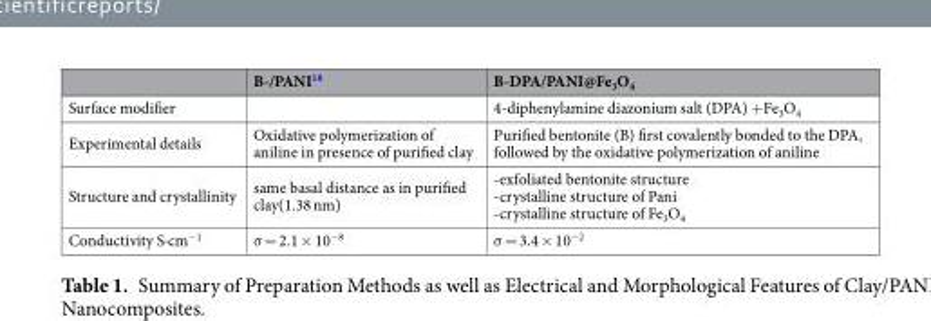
<table><thead><tr><td></td><td>B-/PANI<sup>18</sup></td><td>B-DPA/PANI@Fe<sub>3</sub>O<sub>4</sub></td></tr></thead><tbody><tr><td>Surface modifier</td><td></td><td>4-diphenylamine diazonium salt (DPA) +Fe<sub>3</sub>O<sub>4</sub></td></tr><tr><td>Experimental details</td><td>Oxidative polymerization of aniline in presence of purified clay</td><td>Purified bentonite (B) first covalently bonded to the DPA, followed by the oxidative polymerization of aniline</td></tr><tr><td>Structure and crystallinity</td><td>same basal distance as in purified clay(1.38 nm)</td><td>-exfoliated bentonite structure -crystalline structure of Pani -crystalline structure of Fe<sub>3</sub>O<sub>4</sub></td></tr><tr><td>Conductivity S·cm<sup>−1</sup></td><td>σ = 2.1 × 10<sup>−8</sup></td><td>σ = 3.4 × 10<sup>−2</sup></td></tr></tbody></table>